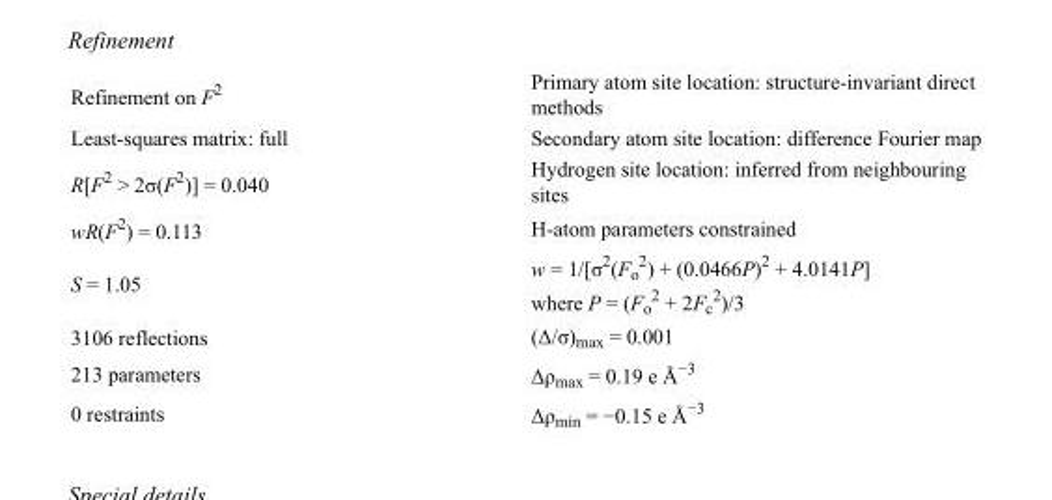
<table><tbody><tr><td>Refinement on F<sup>2</sup></td><td>Primary atom site location: structure-invariant direct methods</td></tr><tr><td>Least-squares matrix: full</td><td>Secondary atom site location: difference Fourier map</td></tr><tr><td>R[F<sup>2</sup> &gt; 2σ(F<sup>2</sup>)] = 0.040</td><td>Hydrogen site location: inferred from neighbouring sites</td></tr><tr><td>wR(F<sup>2</sup>) = 0.113</td><td>H-atom parameters constrained</td></tr><tr><td>S = 1.05</td><td>w = 1/[σ<sup>2</sup>(F<sub>o</sub> <sup>2</sup>) + (0.0466P)<sup>2</sup> + 4.0141P] where P = (F<sub>o</sub> <sup>2</sup> + 2F<sub>c</sub> <sup>2</sup>)/3</td></tr><tr><td>3106 reflections</td><td>(Δ/σ)<sub>max</sub> = 0.001</td></tr><tr><td>213 parameters</td><td>Δρ<sub>max</sub> = 0.19 e Å<sup>−3</sup></td></tr><tr><td>0 restraints</td><td>Δρ<sub>min</sub> = −0.15 e Å<sup>−3</sup></td></tr></tbody></table>